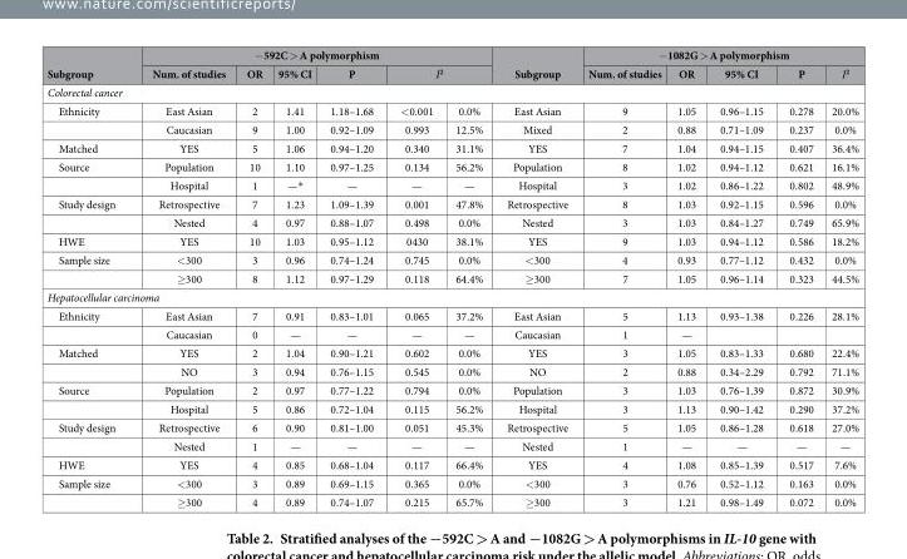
<table><thead><tr><td rowspan="2">Subgroup</td><td colspan="6">− 592C &gt; A polymorphism</td><td rowspan="2">Subgroup</td><td colspan="5">− 1082G &gt; A polymorphism</td></tr><tr><td>Num. of studies</td><td>OR</td><td>95% CI</td><td>P</td><td colspan="2">I<sup>2</sup></td><td>Num. of studies</td><td>OR</td><td>95% CI</td><td>P</td><td>I<sup>2</sup></td></tr><tr><td colspan="13">Colorectal cancer</td></tr><tr><td>Ethnicity</td><td>East Asian</td><td>2</td><td>1.41</td><td>1.18–1.68</td><td>&lt; 0.001</td><td>0.0%</td><td>East Asian</td><td>9</td><td>1.05</td><td>0.96–1.15</td><td>0.278</td><td>20.0%</td></tr></thead><tbody><tr><td></td><td>Caucasian</td><td>9</td><td>1.00</td><td>0.92–1.09</td><td>0.993</td><td>12.5%</td><td>Mixed</td><td>2</td><td>0.88</td><td>0.71–1.09</td><td>0.237</td><td>0.0%</td></tr><tr><td>Matched</td><td>YES</td><td>5</td><td>1.06</td><td>0.94–1.20</td><td>0.340</td><td>31.1%</td><td>YES</td><td>7</td><td>1.04</td><td>0.94–1.15</td><td>0.407</td><td>36.4%</td></tr><tr><td rowspan="2">Source</td><td>Population</td><td>10</td><td>1.10</td><td>0.97–1.25</td><td>0.134</td><td>56.2%</td><td>Population</td><td>8</td><td>1.02</td><td>0.94–1.12</td><td>0.621</td><td>16.1%</td></tr><tr><td>Hospital</td><td>1</td><td>—*</td><td>—</td><td>—</td><td>—</td><td>Hospital</td><td>3</td><td>1.02</td><td>0.86–1.22</td><td>0.802</td><td>48.9%</td></tr><tr><td rowspan="2">Study design</td><td>Retrospective</td><td>7</td><td>1.23</td><td>1.09–1.39</td><td>0.001</td><td>47.8%</td><td>Retrospective</td><td>8</td><td>1.03</td><td>0.92–1.15</td><td>0.596</td><td>0.0%</td></tr><tr><td>Nested</td><td>4</td><td>0.97</td><td>0.88–1.07</td><td>0.498</td><td>0.0%</td><td>Nested</td><td>3</td><td>1.03</td><td>0.84–1.27</td><td>0.749</td><td>65.9%</td></tr><tr><td>HWE</td><td>YES</td><td>10</td><td>1.03</td><td>0.95–1.12</td><td>0430</td><td>38.1%</td><td>YES</td><td>9</td><td>1.03</td><td>0.94–1.12</td><td>0.586</td><td>18.2%</td></tr><tr><td rowspan="2">Sample size</td><td>&lt; 300</td><td>3</td><td>0.96</td><td>0.74–1.24</td><td>0.745</td><td>0.0%</td><td>&lt; 300</td><td>4</td><td>0.93</td><td>0.77–1.12</td><td>0.432</td><td>0.0%</td></tr><tr><td>≥ 300</td><td>8</td><td>1.12</td><td>0.97–1.29</td><td>0.118</td><td>64.4%</td><td>≥ 300</td><td>7</td><td>1.05</td><td>0.96–1.14</td><td>0.323</td><td>44.5%</td></tr><tr><td colspan="13">Hepatocellular carcinoma</td></tr><tr><td rowspan="2">Ethnicity</td><td>East Asian</td><td>7</td><td>0.91</td><td>0.83–1.01</td><td>0.065</td><td>37.2%</td><td>East Asian</td><td>5</td><td>1.13</td><td>0.93–1.38</td><td>0.226</td><td>28.1%</td></tr><tr><td>Caucasian</td><td>0</td><td>—</td><td>—</td><td>—</td><td>—</td><td>Caucasian</td><td>1</td><td>—</td><td></td><td></td><td></td></tr><tr><td rowspan="2">Matched</td><td>YES</td><td>2</td><td>1.04</td><td>0.90–1.21</td><td>0.602</td><td>0.0%</td><td>YES</td><td>3</td><td>1.05</td><td>0.83–1.33</td><td>0.680</td><td>22.4%</td></tr><tr><td>NO</td><td>3</td><td>0.94</td><td>0.76–1.15</td><td>0.545</td><td>0.0%</td><td>NO</td><td>2</td><td>0.88</td><td>0.34–2.29</td><td>0.792</td><td>71.1%</td></tr><tr><td rowspan="2">Source</td><td>Population</td><td>2</td><td>0.97</td><td>0.77–1.22</td><td>0.794</td><td>0.0%</td><td>Population</td><td>3</td><td>1.03</td><td>0.76–1.39</td><td>0.872</td><td>30.9%</td></tr><tr><td>Hospital</td><td>5</td><td>0.86</td><td>0.72–1.04</td><td>0.115</td><td>56.2%</td><td>Hospital</td><td>3</td><td>1.13</td><td>0.90–1.42</td><td>0.290</td><td>37.2%</td></tr><tr><td rowspan="2">Study design</td><td>Retrospective</td><td>6</td><td>0.90</td><td>0.81–1.00</td><td>0.051</td><td>45.3%</td><td>Retrospective</td><td>5</td><td>1.05</td><td>0.86–1.28</td><td>0.618</td><td>27.0%</td></tr><tr><td>Nested</td><td>1</td><td>—</td><td>—</td><td>—</td><td>—</td><td>Nested</td><td>1</td><td>—</td><td>—</td><td>—</td><td>—</td></tr><tr><td>HWE</td><td>YES</td><td>4</td><td>0.85</td><td>0.68–1.04</td><td>0.117</td><td>66.4%</td><td>YES</td><td>4</td><td>1.08</td><td>0.85–1.39</td><td>0.517</td><td>7.6%</td></tr><tr><td rowspan="2">Sample size</td><td>&lt; 300</td><td>3</td><td>0.89</td><td>0.69–1.15</td><td>0.365</td><td>0.0%</td><td>&lt; 300</td><td>3</td><td>0.76</td><td>0.52–1.12</td><td>0.163</td><td>0.0%</td></tr><tr><td>≥ 300</td><td>4</td><td>0.89</td><td>0.74–1.07</td><td>0.215</td><td>65.7%</td><td>≥ 300</td><td>3</td><td>1.21</td><td>0.98–1.49</td><td>0.072</td><td>0.0%</td></tr></tbody></table>